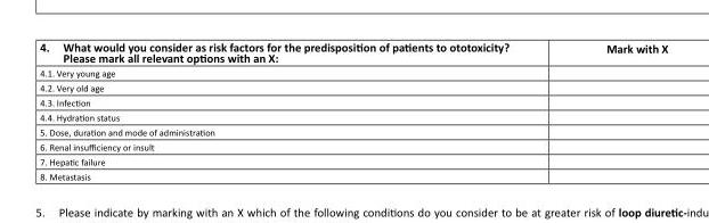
<table><tbody><tr><td>4. What would you consider as risk factors for the predisposition of patients to ototoxicity? Please mark all relevant options with an X:</td><td>Mark with X</td></tr><tr><td colspan="2">4.1. Very young age</td></tr><tr><td colspan="2">4.2. Very old age</td></tr><tr><td colspan="2">4.3. Infection</td></tr><tr><td colspan="2">4.4. Hydration status</td></tr><tr><td colspan="2">5. Dose, duration and mode of administration</td></tr><tr><td colspan="2">6. Renal insufficiency or insult</td></tr><tr><td colspan="2">7. Hepatic failure</td></tr><tr><td>8. Metastasis</td><td></td></tr></tbody></table>